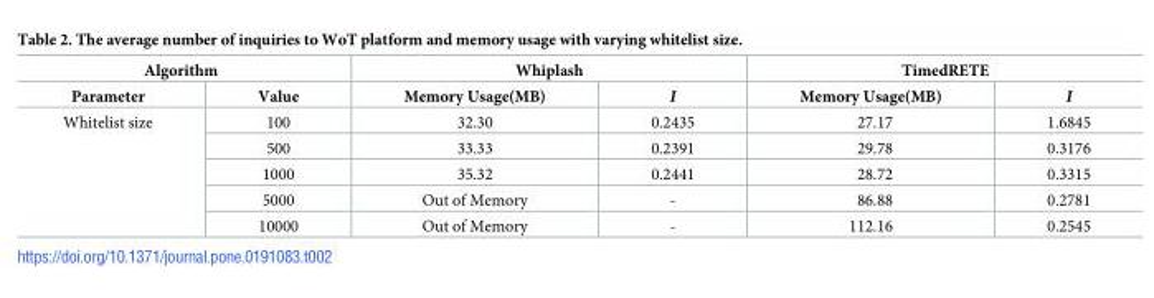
<table><thead><tr><td colspan="2">Algorithm</td><td colspan="2">Whiplash</td><td colspan="2">TimedRETE</td></tr><tr><td>Parameter</td><td>Value</td><td>Memory Usage(MB)</td><td>I</td><td>Memory Usage(MB)</td><td>I</td></tr></thead><tbody><tr><td rowspan="5">Whitelist size</td><td>100</td><td>32.30</td><td>0.2435</td><td>27.17</td><td>1.6845</td></tr><tr><td>500</td><td>33.33</td><td>0.2391</td><td>29.78</td><td>0.3176</td></tr><tr><td>1000</td><td>35.32</td><td>0.2441</td><td>28.72</td><td>0.3315</td></tr><tr><td>5000</td><td>Out of Memory</td><td>-</td><td>86.88</td><td>0.2781</td></tr><tr><td>10000</td><td>Out of Memory</td><td>-</td><td>112.16</td><td>0.2545</td></tr></tbody></table>